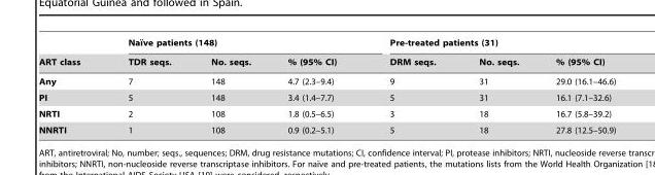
<table><thead><tr><td rowspan="2">ART class</td><td colspan="3">Naı¨ve patients (148)</td><td colspan="3">Pre-treated patients (31)</td></tr><tr><td>TDR seqs.</td><td>No. seqs.</td><td>% (95% CI)</td><td>DRM seqs.</td><td>No. seqs.</td><td>% (95% CI)</td></tr></thead><tbody><tr><td>Any</td><td>7</td><td>148</td><td>4.7 (2.3–9.4)</td><td>9</td><td>31</td><td>29.0 (16.1–46.6)</td></tr><tr><td>PI</td><td>5</td><td>148</td><td>3.4 (1.4–7.7)</td><td>5</td><td>31</td><td>16.1 (7.1–32.6)</td></tr><tr><td>NRTI</td><td>2</td><td>108</td><td>1.8 (0.5–6.5)</td><td>3</td><td>18</td><td>16.7 (5.8–39.2)</td></tr><tr><td>NNRTI</td><td>1</td><td>108</td><td>0.9 (0.2–5.1)</td><td>5</td><td>18</td><td>27.8 (12.5–50.9)</td></tr></tbody></table>